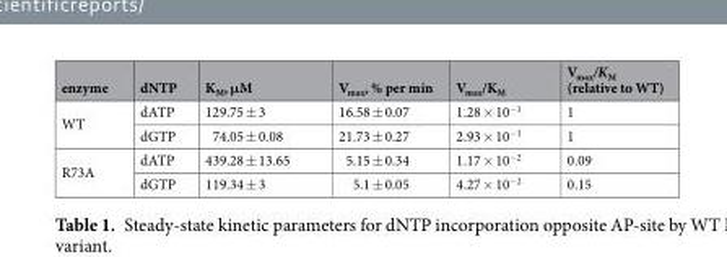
<table><thead><tr><td>enzyme</td><td>dNTP</td><td>K<sub>M</sub>, μM</td><td>V<sub>max</sub>, % per min</td><td>V<sub>max</sub>/K<sub>M</sub></td><td>V<sub>max</sub>/K<sub>M</sub> (relative to WT)</td></tr></thead><tbody><tr><td rowspan="2">WT</td><td>dATP</td><td>129.75 ± 3</td><td>16.58 ± 0.07</td><td>1.28 × 10<sup>−1</sup></td><td>1</td></tr><tr><td>dGTP</td><td>74.05 ± 0.08</td><td>21.73 ± 0.27</td><td>2.93 × 10<sup>−1</sup></td><td>1</td></tr><tr><td rowspan="2">R73A</td><td>dATP</td><td>439.28 ± 13.65</td><td>5.15 ± 0.34</td><td>1.17 × 10<sup>−2</sup></td><td>0.09</td></tr><tr><td>dGTP</td><td>119.34 ± 3</td><td>5.1 ± 0.05</td><td>4.27 × 10<sup>−2</sup></td><td>0.15</td></tr></tbody></table>